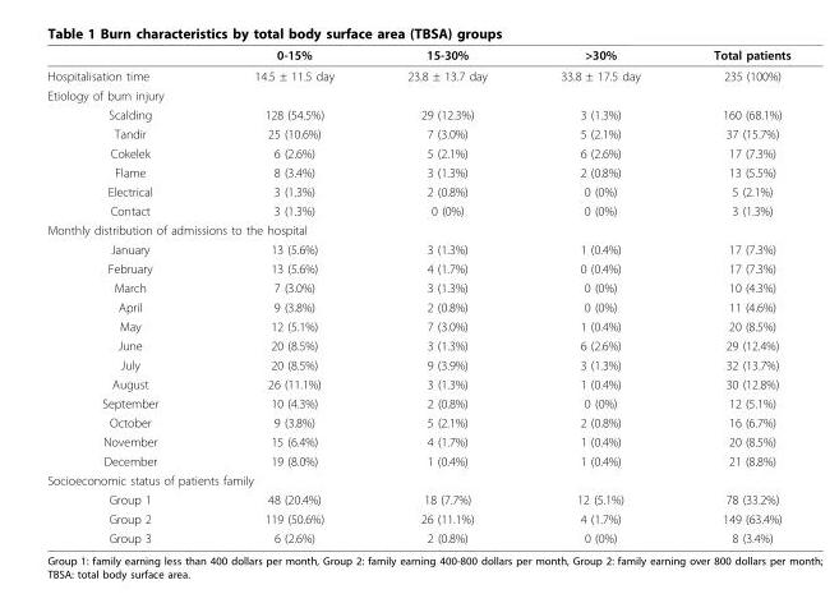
<table><thead><tr><td></td><td>0-15%</td><td>15-30%</td><td>&gt;30%</td><td>Total patients</td></tr></thead><tbody><tr><td>Hospitalisation time</td><td>14.5 ± 11.5 day</td><td>23.8 ± 13.7 day</td><td>33.8 ± 17.5 day</td><td>235 (100%)</td></tr><tr><td colspan="5">Etiology of burn injury</td></tr><tr><td>Scalding</td><td>128 (54.5%)</td><td>29 (12.3%)</td><td>3 (1.3%)</td><td>160 (68.1%)</td></tr><tr><td>Tandir</td><td>25 (10.6%)</td><td>7 (3.0%)</td><td>5 (2.1%)</td><td>37 (15.7%)</td></tr><tr><td>Cokelek</td><td>6 (2.6%)</td><td>5 (2.1%)</td><td>6 (2.6%)</td><td>17 (7.3%)</td></tr><tr><td>Flame</td><td>8 (3.4%)</td><td>3 (1.3%)</td><td>2 (0.8%)</td><td>13 (5.5%)</td></tr><tr><td>Electrical</td><td>3 (1.3%)</td><td>2 (0.8%)</td><td>0 (0%)</td><td>5 (2.1%)</td></tr><tr><td>Contact</td><td>3 (1.3%)</td><td>0 (0%)</td><td>0 (0%)</td><td>3 (1.3%)</td></tr><tr><td colspan="5">Monthly distribution of admissions to the hospital</td></tr><tr><td>January</td><td>13 (5.6%)</td><td>3 (1.3%)</td><td>1 (0.4%)</td><td>17 (7.3%)</td></tr><tr><td>February</td><td>13 (5.6%)</td><td>4 (1.7%)</td><td>0 (0.4%)</td><td>17 (7.3%)</td></tr><tr><td>March</td><td>7 (3.0%)</td><td>3 (1.3%)</td><td>0 (0%)</td><td>10 (4.3%)</td></tr><tr><td>April</td><td>9 (3.8%)</td><td>2 (0.8%)</td><td>0 (0%)</td><td>11 (4.6%)</td></tr><tr><td>May</td><td>12 (5.1%)</td><td>7 (3.0%)</td><td>1 (0.4%)</td><td>20 (8.5%)</td></tr><tr><td>June</td><td>20 (8.5%)</td><td>3 (1.3%)</td><td>6 (2.6%)</td><td>29 (12.4%)</td></tr><tr><td>July</td><td>20 (8.5%)</td><td>9 (3.9%)</td><td>3 (1.3%)</td><td>32 (13.7%)</td></tr><tr><td>August</td><td>26 (11.1%)</td><td>3 (1.3%)</td><td>1 (0.4%)</td><td>30 (12.8%)</td></tr><tr><td>September</td><td>10 (4.3%)</td><td>2 (0.8%)</td><td>0 (0%)</td><td>12 (5.1%)</td></tr><tr><td>October</td><td>9 (3.8%)</td><td>5 (2.1%)</td><td>2 (0.8%)</td><td>16 (6.7%)</td></tr><tr><td>November</td><td>15 (6.4%)</td><td>4 (1.7%)</td><td>1 (0.4%)</td><td>20 (8.5%)</td></tr><tr><td>December</td><td>19 (8.0%)</td><td>1 (0.4%)</td><td>1 (0.4%)</td><td>21 (8.8%)</td></tr><tr><td colspan="5">Socioeconomic status of patients family</td></tr><tr><td>Group 1</td><td>48 (20.4%)</td><td>18 (7.7%)</td><td>12 (5.1%)</td><td>78 (33.2%)</td></tr><tr><td>Group 2</td><td>119 (50.6%)</td><td>26 (11.1%)</td><td>4 (1.7%)</td><td>149 (63.4%)</td></tr><tr><td>Group 3</td><td>6 (2.6%)</td><td>2 (0.8%)</td><td>0 (0%)</td><td>8 (3.4%)</td></tr></tbody></table>